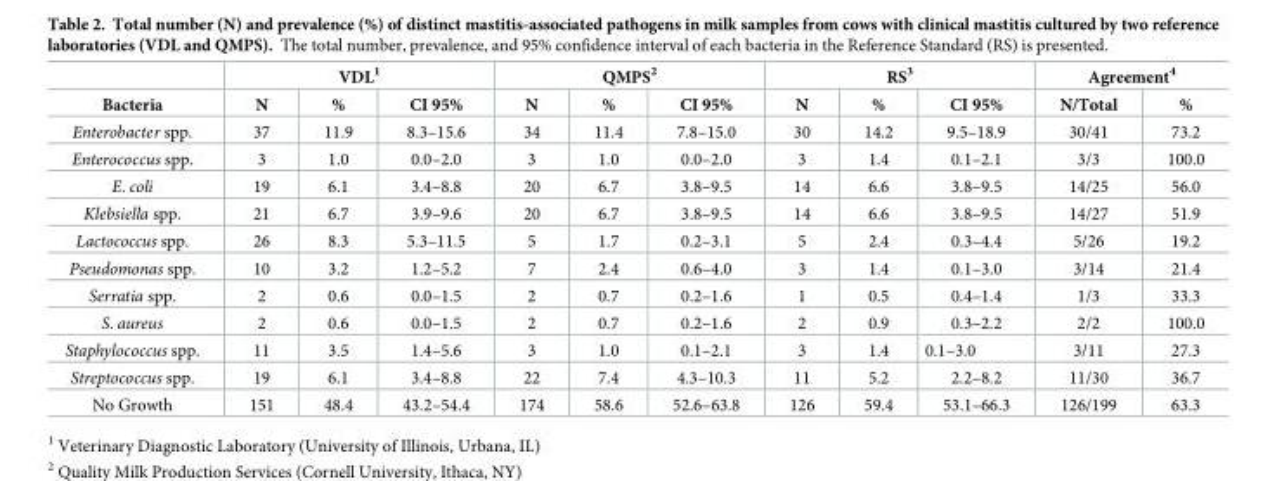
<table><thead><tr><td rowspan="2">Bacteria</td><td colspan="3">VDL<sup>1</sup></td><td colspan="3">QMPS<sup>2</sup></td><td colspan="3">RS<sup>3</sup></td><td colspan="2">Agreement<sup>4</sup></td></tr><tr><td>N</td><td>%</td><td>CI 95%</td><td>N</td><td>%</td><td>CI 95%</td><td>N</td><td>%</td><td>CI 95%</td><td>N/Total</td><td>%</td></tr></thead><tbody><tr><td>Enterobacter spp.</td><td>37</td><td>11.9</td><td>8.3–15.6</td><td>34</td><td>11.4</td><td>7.8–15.0</td><td>30</td><td>14.2</td><td>9.5–18.9</td><td>30/41</td><td>73.2</td></tr><tr><td>Enterococcus spp.</td><td>3</td><td>1.0</td><td>0.0–2.0</td><td>3</td><td>1.0</td><td>0.0–2.0</td><td>3</td><td>1.4</td><td>0.1–2.1</td><td>3/3</td><td>100.0</td></tr><tr><td>E. coli</td><td>19</td><td>6.1</td><td>3.4–8.8</td><td>20</td><td>6.7</td><td>3.8–9.5</td><td>14</td><td>6.6</td><td>3.8–9.5</td><td>14/25</td><td>56.0</td></tr><tr><td>Klebsiella spp.</td><td>21</td><td>6.7</td><td>3.9–9.6</td><td>20</td><td>6.7</td><td>3.8–9.5</td><td>14</td><td>6.6</td><td>3.8–9.5</td><td>14/27</td><td>51.9</td></tr><tr><td>Lactococcus spp.</td><td>26</td><td>8.3</td><td>5.3–11.5</td><td>5</td><td>1.7</td><td>0.2–3.1</td><td>5</td><td>2.4</td><td>0.3–4.4</td><td>5/26</td><td>19.2</td></tr><tr><td>Pseudomonas spp.</td><td>10</td><td>3.2</td><td>1.2–5.2</td><td>7</td><td>2.4</td><td>0.6–4.0</td><td>3</td><td>1.4</td><td>0.1–3.0</td><td>3/14</td><td>21.4</td></tr><tr><td>Serratia spp.</td><td>2</td><td>0.6</td><td>0.0–1.5</td><td>2</td><td>0.7</td><td>0.2–1.6</td><td>1</td><td>0.5</td><td>0.4–1.4</td><td>1/3</td><td>33.3</td></tr><tr><td>S. aureus</td><td>2</td><td>0.6</td><td>0.0–1.5</td><td>2</td><td>0.7</td><td>0.2–1.6</td><td>2</td><td>0.9</td><td>0.3–2.2</td><td>2/2</td><td>100.0</td></tr><tr><td>Staphylococcus spp.</td><td>11</td><td>3.5</td><td>1.4–5.6</td><td>3</td><td>1.0</td><td>0.1–2.1</td><td>3</td><td>1.4</td><td>0.1–3.0</td><td>3/11</td><td>27.3</td></tr><tr><td>Streptococcus spp.</td><td>19</td><td>6.1</td><td>3.4–8.8</td><td>22</td><td>7.4</td><td>4.3–10.3</td><td>11</td><td>5.2</td><td>2.2–8.2</td><td>11/30</td><td>36.7</td></tr><tr><td>No Growth</td><td>151</td><td>48.4</td><td>43.2–54.4</td><td>174</td><td>58.6</td><td>52.6–63.8</td><td>126</td><td>59.4</td><td>53.1–66.3</td><td>126/199</td><td>63.3</td></tr></tbody></table>